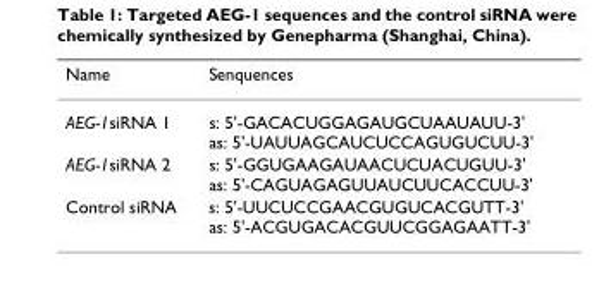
<table><thead><tr><td>Name</td><td>Senquences</td></tr></thead><tbody><tr><td>AEG-1siRNA 1</td><td>s: 5&#x27;-GACACUGGAGAUGCUAAUAUU-3&#x27; as: 5&#x27;-UAUUAGCAUCUCCAGUGUCUU-3&#x27;</td></tr><tr><td>AEG-1siRNA 2</td><td>s: 5&#x27;-GGUGAAGAUAACUCUACUGUU-3&#x27; as: 5&#x27;-CAGUAGAGUUAUCUUCACCUU-3&#x27;</td></tr><tr><td>Control siRNA</td><td>s: 5&#x27;-UUCUCCGAACGUGUCACGUTT-3&#x27; as: 5&#x27;-ACGUGACACGUUCGGAGAATT-3&#x27;</td></tr></tbody></table>